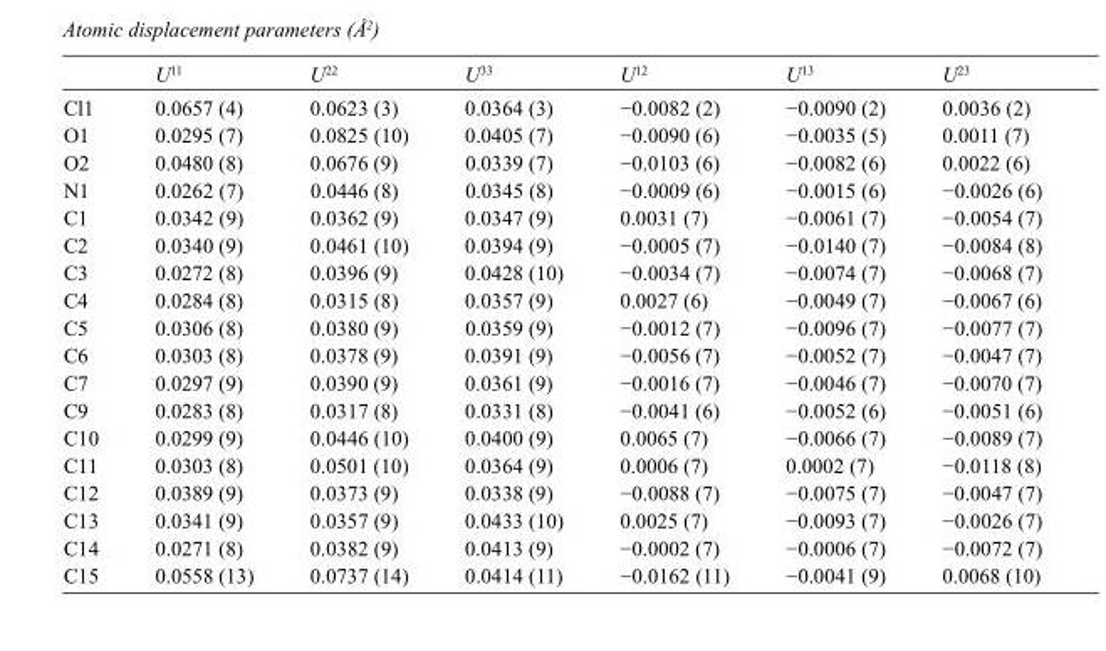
<table><thead><tr><td></td><td>U<sup>11</sup></td><td>U<sup>22</sup></td><td>U<sup>33</sup></td><td>U<sup>12</sup></td><td>U<sup>13</sup></td><td>U<sup>23</sup></td></tr></thead><tbody><tr><td>Cl1</td><td>0.0657 (4)</td><td>0.0623 (3)</td><td>0.0364 (3)</td><td>−0.0082 (2)</td><td>−0.0090 (2)</td><td>0.0036 (2)</td></tr><tr><td>O1</td><td>0.0295 (7)</td><td>0.0825 (10)</td><td>0.0405 (7)</td><td>−0.0090 (6)</td><td>−0.0035 (5)</td><td>0.0011 (7)</td></tr><tr><td>O2</td><td>0.0480 (8)</td><td>0.0676 (9)</td><td>0.0339 (7)</td><td>−0.0103 (6)</td><td>−0.0082 (6)</td><td>0.0022 (6)</td></tr><tr><td>N1</td><td>0.0262 (7)</td><td>0.0446 (8)</td><td>0.0345 (8)</td><td>−0.0009 (6)</td><td>−0.0015 (6)</td><td>−0.0026 (6)</td></tr><tr><td>C1</td><td>0.0342 (9)</td><td>0.0362 (9)</td><td>0.0347 (9)</td><td>0.0031 (7)</td><td>−0.0061 (7)</td><td>−0.0054 (7)</td></tr><tr><td>C2</td><td>0.0340 (9)</td><td>0.0461 (10)</td><td>0.0394 (9)</td><td>−0.0005 (7)</td><td>−0.0140 (7)</td><td>−0.0084 (8)</td></tr><tr><td>C3</td><td>0.0272 (8)</td><td>0.0396 (9)</td><td>0.0428 (10)</td><td>−0.0034 (7)</td><td>−0.0074 (7)</td><td>−0.0068 (7)</td></tr><tr><td>C4</td><td>0.0284 (8)</td><td>0.0315 (8)</td><td>0.0357 (9)</td><td>0.0027 (6)</td><td>−0.0049 (7)</td><td>−0.0067 (6)</td></tr><tr><td>C5</td><td>0.0306 (8)</td><td>0.0380 (9)</td><td>0.0359 (9)</td><td>−0.0012 (7)</td><td>−0.0096 (7)</td><td>−0.0077 (7)</td></tr><tr><td>C6</td><td>0.0303 (8)</td><td>0.0378 (9)</td><td>0.0391 (9)</td><td>−0.0056 (7)</td><td>−0.0052 (7)</td><td>−0.0047 (7)</td></tr><tr><td>C7</td><td>0.0297 (9)</td><td>0.0390 (9)</td><td>0.0361 (9)</td><td>−0.0016 (7)</td><td>−0.0046 (7)</td><td>−0.0070 (7)</td></tr><tr><td>C9</td><td>0.0283 (8)</td><td>0.0317 (8)</td><td>0.0331 (8)</td><td>−0.0041 (6)</td><td>−0.0052 (6)</td><td>−0.0051 (6)</td></tr><tr><td>C10</td><td>0.0299 (9)</td><td>0.0446 (10)</td><td>0.0400 (9)</td><td>0.0065 (7)</td><td>−0.0066 (7)</td><td>−0.0089 (7)</td></tr><tr><td>C11</td><td>0.0303 (8)</td><td>0.0501 (10)</td><td>0.0364 (9)</td><td>0.0006 (7)</td><td>0.0002 (7)</td><td>−0.0118 (8)</td></tr><tr><td>C12</td><td>0.0389 (9)</td><td>0.0373 (9)</td><td>0.0338 (9)</td><td>−0.0088 (7)</td><td>−0.0075 (7)</td><td>−0.0047 (7)</td></tr><tr><td>C13</td><td>0.0341 (9)</td><td>0.0357 (9)</td><td>0.0433 (10)</td><td>0.0025 (7)</td><td>−0.0093 (7)</td><td>−0.0026 (7)</td></tr><tr><td>C14</td><td>0.0271 (8)</td><td>0.0382 (9)</td><td>0.0413 (9)</td><td>−0.0002 (7)</td><td>−0.0006 (7)</td><td>−0.0072 (7)</td></tr><tr><td>C15</td><td>0.0558 (13)</td><td>0.0737 (14)</td><td>0.0414 (11)</td><td>−0.0162 (11)</td><td>−0.0041 (9)</td><td>0.0068 (10)</td></tr></tbody></table>